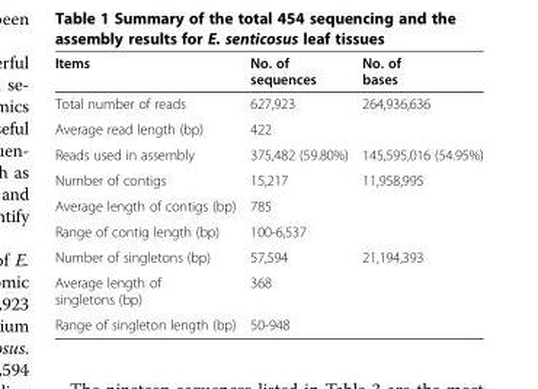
<table><thead><tr><td>Items</td><td>No. of sequences</td><td>No. of bases</td></tr></thead><tbody><tr><td>Total number of reads</td><td>627,923</td><td>264,936,636</td></tr><tr><td>Average read length (bp)</td><td>422</td><td></td></tr><tr><td>Reads used in assembly</td><td>375,482 (59.80%)</td><td>145,595,016 (54.95%)</td></tr><tr><td>Number of contigs</td><td>15,217</td><td>11,958,995</td></tr><tr><td>Average length of contigs (bp)</td><td>785</td><td></td></tr><tr><td>Range of contig length (bp)</td><td>100-6,537</td><td></td></tr><tr><td>Number of singletons (bp)</td><td>57,594</td><td>21,194,393</td></tr><tr><td>Average length of singletons (bp)</td><td>368</td><td></td></tr><tr><td>Range of singleton length (bp)</td><td>50-948</td><td></td></tr></tbody></table>